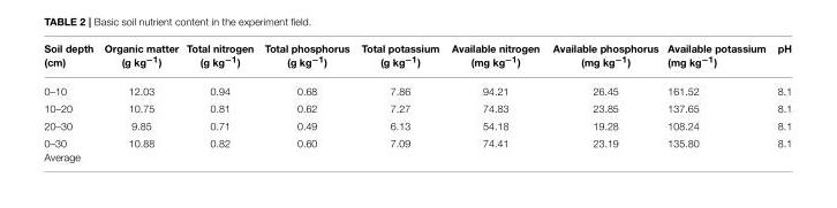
<table><thead><tr><td>Soil depth (cm)</td><td>Organic matter (g kg<sup>−1</sup>)</td><td>Total nitrogen (g kg<sup>−1</sup>)</td><td>Total phosphorus (g kg<sup>−1</sup>)</td><td>Total potassium (g kg<sup>−1</sup>)</td><td>Available nitrogen (mg kg<sup>−1</sup>)</td><td>Available phosphorus (mg kg<sup>−1</sup>)</td><td>Available potassium (mg kg<sup>−1</sup>)</td><td>pH</td></tr></thead><tbody><tr><td>0–10</td><td>12.03</td><td>0.94</td><td>0.68</td><td>7.86</td><td>94.21</td><td>26.45</td><td>161.52</td><td>8.1</td></tr><tr><td>10–20</td><td>10.75</td><td>0.81</td><td>0.62</td><td>7.27</td><td>74.83</td><td>23.85</td><td>137.65</td><td>8.1</td></tr><tr><td>20–30</td><td>9.85</td><td>0.71</td><td>0.49</td><td>6.13</td><td>54.18</td><td>19.28</td><td>108.24</td><td>8.1</td></tr><tr><td>0–30 Average</td><td>10.88</td><td>0.82</td><td>0.60</td><td>7.09</td><td>74.41</td><td>23.19</td><td>135.80</td><td>8.1</td></tr></tbody></table>